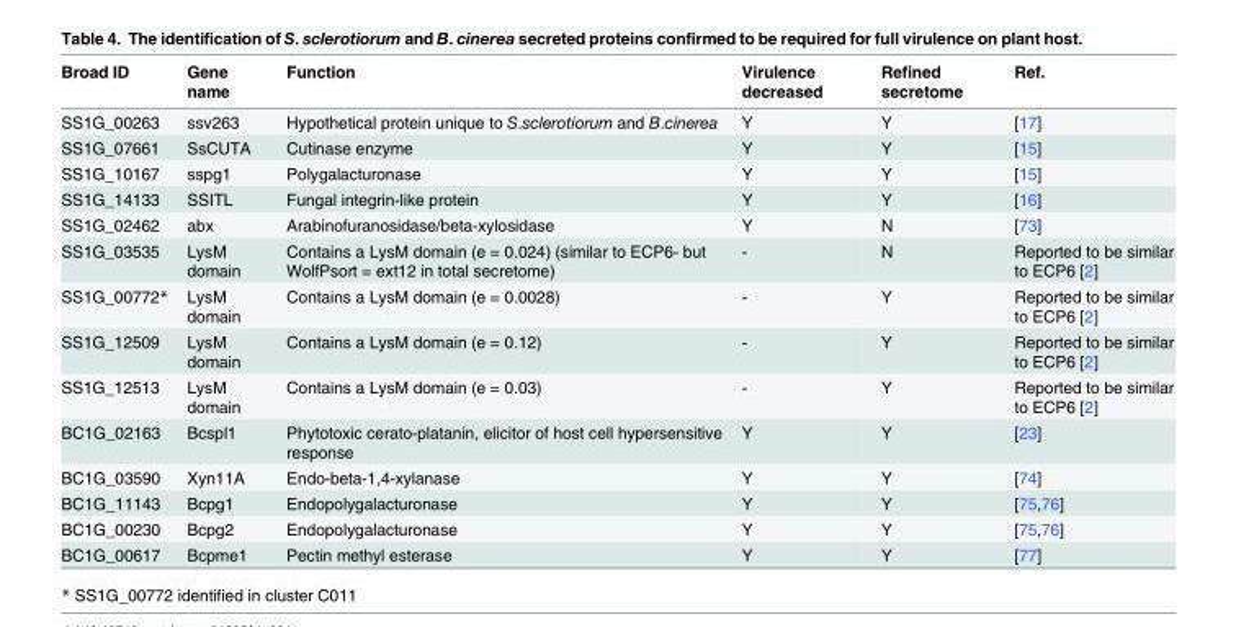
<table><thead><tr><td>Broad ID</td><td>Gene name</td><td>Function</td><td>Virulence decreased</td><td>Refined secretome</td><td>Ref.</td></tr></thead><tbody><tr><td>SS1G_00263</td><td>ssv263</td><td>Hypothetical protein unique to S.sclerotiorum and B.cinerea</td><td>Y</td><td>Y</td><td>[17]</td></tr><tr><td>SS1G_07661</td><td>SsCUTA</td><td>Cutinase enzyme</td><td>Y</td><td>Y</td><td>[15]</td></tr><tr><td>SS1G_10167</td><td>sspg1</td><td>Polygalacturonase</td><td>Y</td><td>Y</td><td>[15]</td></tr><tr><td>SS1G_14133</td><td>SSITL</td><td>Fungal integrin-like protein</td><td>Y</td><td>Y</td><td>[16]</td></tr><tr><td>SS1G_02462</td><td>abx</td><td>Arabinofuranosidase/beta-xylosidase</td><td>Y</td><td>N</td><td>[73]</td></tr><tr><td>SS1G_03535</td><td>LysM domain</td><td>Contains a LysM domain (e = 0.024) (similar to ECP6- but WolfPsort = ext12 in total secretome)</td><td>-</td><td>N</td><td>Reported to be similar to ECP6 [2]</td></tr><tr><td>SS1G_00772*</td><td>LysM domain</td><td>Contains a LysM domain (e = 0.0028)</td><td>-</td><td>Y</td><td>Reported to be similar to ECP6 [2]</td></tr><tr><td>SS1G_12509</td><td>LysM domain</td><td>Contains a LysM domain (e = 0.12)</td><td>-</td><td>Y</td><td>Reported to be similar to ECP6 [2]</td></tr><tr><td>SS1G_12513</td><td>LysM domain</td><td>Contains a LysM domain (e = 0.03)</td><td>-</td><td>Y</td><td>Reported to be similar to ECP6 [2]</td></tr><tr><td>BC1G_02163</td><td>Bcspl1</td><td>Phytotoxic cerato-platanin, elicitor of host cell hypersensitive response</td><td>Y</td><td>Y</td><td>[23]</td></tr><tr><td>BC1G_03590</td><td>Xyn11A</td><td>Endo-beta-1,4-xylanase</td><td>Y</td><td>Y</td><td>[74]</td></tr><tr><td>BC1G_11143</td><td>Bcpg1</td><td>Endopolygalacturonase</td><td>Y</td><td>Y</td><td>[75,76]</td></tr><tr><td>BC1G_00230</td><td>Bcpg2</td><td>Endopolygalacturonase</td><td>Y</td><td>Y</td><td>[75,76]</td></tr><tr><td>BC1G_00617</td><td>Bcpme1</td><td>Pectin methyl esterase</td><td>Y</td><td>Y</td><td>[77]</td></tr></tbody></table>